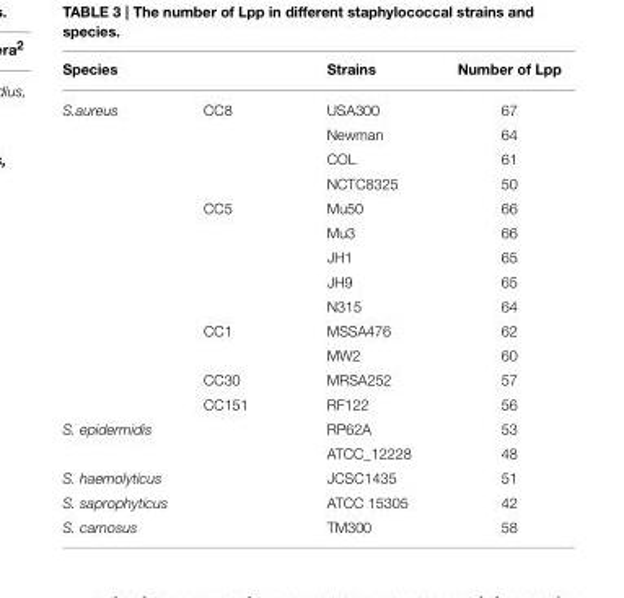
<table><thead><tr><td colspan="2">Species</td><td rowspan="2">Strains USA300</td><td rowspan="2">Number of Lpp 67</td></tr><tr><td>S.aureus</td><td>CC8</td></tr></thead><tbody><tr><td></td><td></td><td>Newman</td><td>64</td></tr><tr><td></td><td></td><td>COL</td><td>61</td></tr><tr><td></td><td></td><td>NCTC8325</td><td>50</td></tr><tr><td></td><td>CC5</td><td>Mu50</td><td>66</td></tr><tr><td></td><td></td><td>Mu3</td><td>66</td></tr><tr><td></td><td></td><td>JH1</td><td>65</td></tr><tr><td></td><td></td><td>JH9</td><td>65</td></tr><tr><td></td><td></td><td>N315</td><td>64</td></tr><tr><td></td><td>CC1</td><td>MSSA476</td><td>62</td></tr><tr><td></td><td></td><td>MW2</td><td>60</td></tr><tr><td></td><td>CC30</td><td>MRSA252</td><td>57</td></tr><tr><td></td><td>CC151</td><td>RF122</td><td>56</td></tr><tr><td colspan="2">S. epidermidis</td><td>RP62A</td><td>53</td></tr><tr><td></td><td></td><td>ATCC_12228</td><td>48</td></tr><tr><td colspan="2">S. haemolyticus</td><td>JCSC1435</td><td>51</td></tr><tr><td colspan="2">S. saprophyticus</td><td>ATCC 15305</td><td>42</td></tr><tr><td colspan="2">S. carnosus</td><td>TM300</td><td>58</td></tr></tbody></table>